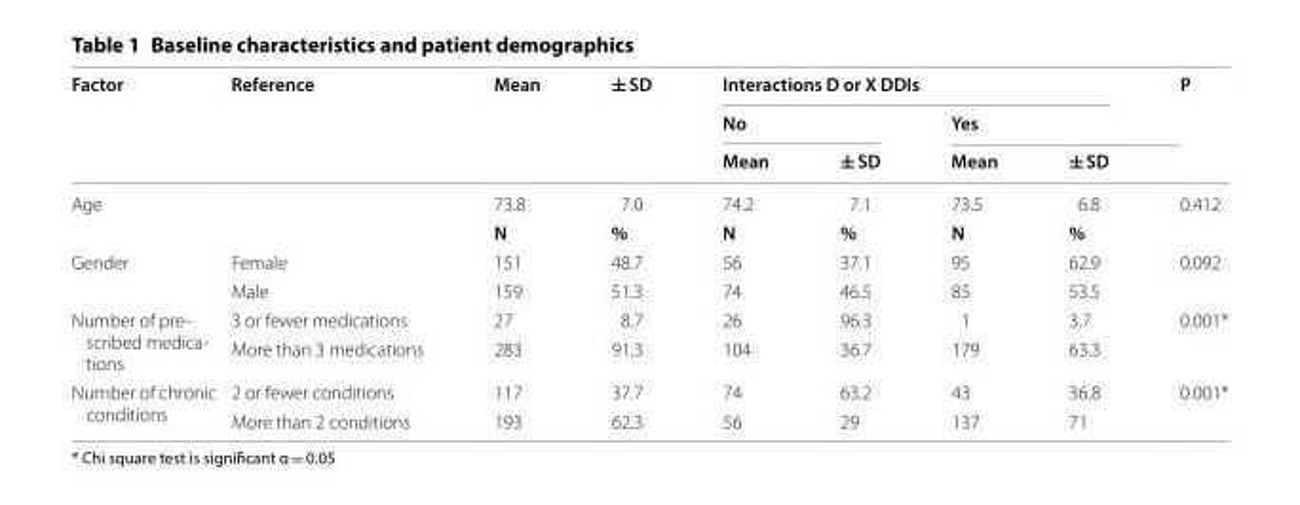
<table><thead><tr><td rowspan="3">Factor</td><td rowspan="3">Reference</td><td rowspan="3">Mean</td><td rowspan="3">± SD</td><td colspan="4">Interactions D or X DDIs</td><td rowspan="3">P</td></tr><tr><td colspan="2">No</td><td colspan="2">Yes</td></tr><tr><td>Mean</td><td>± SD</td><td>Mean</td><td>± SD</td></tr></thead><tbody><tr><td rowspan="2" colspan="2">Age</td><td>73.8</td><td>7.0</td><td>74.2</td><td>7.1</td><td>73.5</td><td>6.8</td><td>0.412</td></tr><tr><td>N</td><td>%</td><td>N</td><td>%</td><td>N</td><td>%</td><td></td></tr><tr><td rowspan="2">Gender</td><td>Female</td><td>151</td><td>48.7</td><td>56</td><td>37.1</td><td>95</td><td>62.9</td><td>0.092</td></tr><tr><td>Male</td><td>159</td><td>51.3</td><td>74</td><td>46.5</td><td>85</td><td>53.5</td><td></td></tr><tr><td rowspan="2">Number of pre- scribed medica- tions</td><td>3 or fewer medications</td><td>27</td><td>8.7</td><td>26</td><td>96.3</td><td>1</td><td>3.7</td><td>0.001*</td></tr><tr><td>More than 3 medications</td><td>283</td><td>91.3</td><td>104</td><td>36.7</td><td>179</td><td>63.3</td><td></td></tr><tr><td rowspan="2">Number of chronic conditions</td><td>2 or fewer conditions</td><td>117</td><td>37.7</td><td>74</td><td>63.2</td><td>43</td><td>36.8</td><td>0.001*</td></tr><tr><td>More than 2 conditions</td><td>193</td><td>62.3</td><td>56</td><td>29</td><td>137</td><td>71</td><td></td></tr></tbody></table>